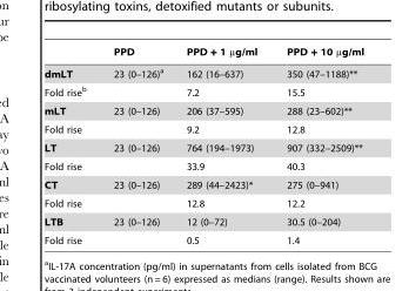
<table><thead><tr><td></td><td>PPD</td><td>PPD + 1 µg/ml</td><td>PPD + 10 µg/ml</td></tr></thead><tbody><tr><td>dmLT</td><td>23 (0–126)<sup>a</sup></td><td>162 (16–637)</td><td>350 (47–1188)**</td></tr><tr><td>Fold rise<sup>b</sup></td><td></td><td>7.2</td><td>15.5</td></tr><tr><td>mLT</td><td>23 (0–126)</td><td>206 (37–595)</td><td>288 (23–602)**</td></tr><tr><td>Fold rise</td><td></td><td>9.2</td><td>12.8</td></tr><tr><td>LT</td><td>23 (0–126)</td><td>764 (194–1973)</td><td>907 (332–2509)**</td></tr><tr><td>Fold rise</td><td></td><td>33.9</td><td>40.3</td></tr><tr><td>CT</td><td>23 (0–126)</td><td>289 (44–2423)*</td><td>275 (0–941)</td></tr><tr><td>Fold rise</td><td></td><td>12.8</td><td>12.2</td></tr><tr><td>LTB</td><td>23 (0–126)</td><td>12 (0–72)</td><td>30.5 (0–204)</td></tr><tr><td>Fold rise</td><td></td><td>0.5</td><td>1.4</td></tr></tbody></table>